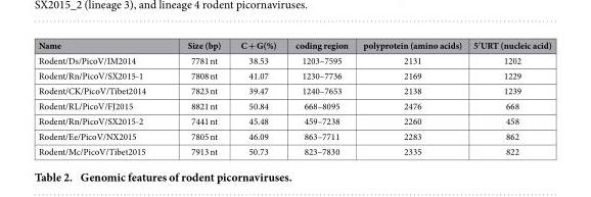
<table><thead><tr><td>Name</td><td>Size (bp)</td><td>C + G(%)</td><td>coding region</td><td>polyprotein (amino acids)</td><td>5′URT (nucleic acid)</td></tr></thead><tbody><tr><td>Rodent/Ds/PicoV/IM2014</td><td>7781 nt</td><td>38.53</td><td>1203–7595</td><td>2131</td><td>1202</td></tr><tr><td>Rodent/Rn/PicoV/SX2015-1</td><td>7808 nt</td><td>41.07</td><td>1230–7736</td><td>2169</td><td>1229</td></tr><tr><td>Rodent/CK/PicoV/Tibet2014</td><td>7823 nt</td><td>39.47</td><td>1240–7653</td><td>2138</td><td>1239</td></tr><tr><td>Rodent/RL/PicoV/FJ2015</td><td>8821 nt</td><td>50.84</td><td>668–8095</td><td>2476</td><td>668</td></tr><tr><td>Rodent/Rn/PicoV/SX2015-2</td><td>7441 nt</td><td>45.48</td><td>459–7238</td><td>2260</td><td>458</td></tr><tr><td>Rodent/Ee/PicoV/NX2015</td><td>7805 nt</td><td>46.09</td><td>863–7711</td><td>2283</td><td>862</td></tr><tr><td>Rodent/Mc/PicoV/Tibet2015</td><td>7913 nt</td><td>50.73</td><td>823–7830</td><td>2335</td><td>822</td></tr></tbody></table>